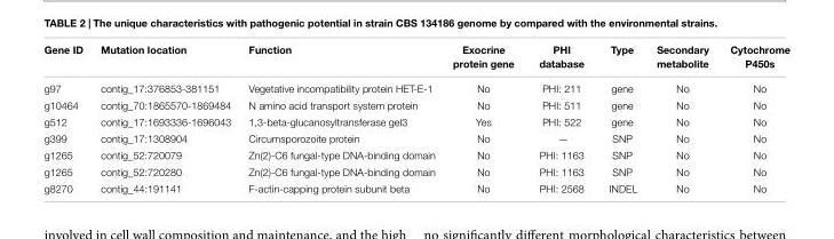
<table><thead><tr><td>Gene ID</td><td>Mutation location</td><td>Function</td><td>Exocrine protein gene</td><td>PHI database</td><td>Type</td><td>Secondary metabolite</td><td>Cytochrome P450s</td></tr></thead><tbody><tr><td>g97</td><td>contig_17:376853-381151</td><td>Vegetative incompatibility protein HET-E-1</td><td>No</td><td>PHI: 211</td><td>gene</td><td>No</td><td>No</td></tr><tr><td>g10464</td><td>contig_70:1865570-1869484</td><td>N amino acid transport system protein</td><td>No</td><td>PHI: 511</td><td>gene</td><td>No</td><td>No</td></tr><tr><td>g512</td><td>contig_17:1693336-1696043</td><td>1,3-beta-glucanosyltransferase gel3</td><td>Yes</td><td>PHI: 522</td><td>gene</td><td>No</td><td>No</td></tr><tr><td>g399</td><td>contig_17:1308904</td><td>Circumsporozoite protein</td><td>No</td><td>—</td><td>SNP</td><td>No</td><td>No</td></tr><tr><td>g1265</td><td>contig_52:720079</td><td>Zn(2)-C6 fungal-type DNA-binding domain</td><td>No</td><td>PHI: 1163</td><td>SNP</td><td>No</td><td>No</td></tr><tr><td>g1265</td><td>contig_52:720280</td><td>Zn(2)-C6 fungal-type DNA-binding domain</td><td>No</td><td>PHI: 1163</td><td>SNP</td><td>No</td><td>No</td></tr><tr><td>g8270</td><td>contig_44:191141</td><td>F-actin-capping protein subunit beta</td><td>No</td><td>PHI: 2568</td><td>INDEL</td><td>No</td><td>No</td></tr></tbody></table>